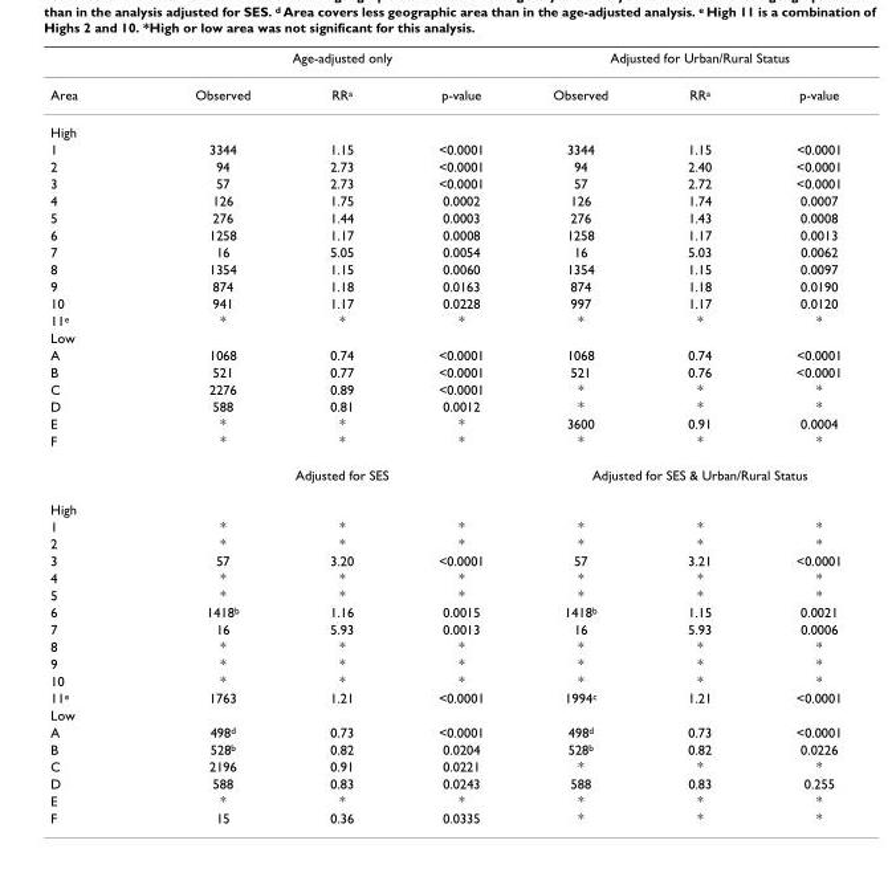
<table><thead><tr><td rowspan="2">Area</td><td colspan="3">Age-adjusted only</td><td colspan="3">Adjusted for Urban/Rural Status</td></tr><tr><td>Observed</td><td>RR<sup>a</sup></td><td>p-value</td><td>Observed</td><td>RR<sup>a</sup></td><td>p-value</td></tr></thead><tbody><tr><td colspan="7">High</td></tr><tr><td>1</td><td>3344</td><td>1.15</td><td>&lt;0.0001</td><td>3344</td><td>1.15</td><td>&lt;0.0001</td></tr><tr><td>2</td><td>94</td><td>2.73</td><td>&lt;0.0001</td><td>94</td><td>2.40</td><td>&lt;0.0001</td></tr><tr><td>3</td><td>57</td><td>2.73</td><td>&lt;0.0001</td><td>57</td><td>2.72</td><td>&lt;0.0001</td></tr><tr><td>4</td><td>126</td><td>1.75</td><td>0.0002</td><td>126</td><td>1.74</td><td>0.0007</td></tr><tr><td>5</td><td>276</td><td>1.44</td><td>0.0003</td><td>276</td><td>1.43</td><td>0.0008</td></tr><tr><td>6</td><td>1258</td><td>1.17</td><td>0.0008</td><td>1258</td><td>1.17</td><td>0.0013</td></tr><tr><td>7</td><td>16</td><td>5.05</td><td>0.0054</td><td>16</td><td>5.03</td><td>0.0062</td></tr><tr><td>8</td><td>1354</td><td>1.15</td><td>0.0060</td><td>1354</td><td>1.15</td><td>0.0097</td></tr><tr><td>9</td><td>874</td><td>1.18</td><td>0.0163</td><td>874</td><td>1.18</td><td>0.0190</td></tr><tr><td>10</td><td>941</td><td>1.17</td><td>0.0228</td><td>997</td><td>1.17</td><td>0.0120</td></tr><tr><td>11<sup>e</sup></td><td>*</td><td>*</td><td>*</td><td>*</td><td>*</td><td>*</td></tr><tr><td colspan="7">Low</td></tr><tr><td>A</td><td>1068</td><td>0.74</td><td>&lt;0.0001</td><td>1068</td><td>0.74</td><td>&lt;0.0001</td></tr><tr><td>B</td><td>521</td><td>0.77</td><td>&lt;0.0001</td><td>521</td><td>0.76</td><td>&lt;0.0001</td></tr><tr><td>C</td><td>2276</td><td>0.89</td><td>&lt;0.0001</td><td>*</td><td>*</td><td>*</td></tr><tr><td>D</td><td>588</td><td>0.81</td><td>0.0012</td><td>*</td><td>*</td><td>*</td></tr><tr><td>E</td><td>*</td><td>*</td><td>*</td><td>3600</td><td>0.91</td><td>0.0004</td></tr><tr><td rowspan="2">F</td><td>*</td><td>*</td><td>*</td><td>*</td><td>*</td><td>*</td></tr><tr><td colspan="3">Adjusted for SES</td><td colspan="3">Adjusted for SES &amp; Urban/Rural Status</td></tr><tr><td colspan="7">High</td></tr><tr><td>1</td><td>*</td><td>*</td><td>*</td><td>*</td><td>*</td><td>*</td></tr><tr><td>2</td><td>*</td><td>*</td><td>*</td><td>*</td><td>*</td><td>*</td></tr><tr><td>3</td><td>57</td><td>3.20</td><td>&lt;0.0001</td><td>57</td><td>3.21</td><td>&lt;0.0001</td></tr><tr><td>4</td><td>*</td><td>*</td><td>*</td><td>*</td><td>*</td><td>*</td></tr><tr><td>5</td><td>*</td><td>*</td><td>*</td><td>*</td><td>*</td><td>*</td></tr><tr><td>6</td><td>1418<sup>b</sup></td><td>1.16</td><td>0.0015</td><td>1418<sup>b</sup></td><td>1.15</td><td>0.0021</td></tr><tr><td>7</td><td>16</td><td>5.93</td><td>0.0013</td><td>16</td><td>5.93</td><td>0.0006</td></tr><tr><td>8</td><td>*</td><td>*</td><td>*</td><td>*</td><td>*</td><td>*</td></tr><tr><td>9</td><td>*</td><td>*</td><td>*</td><td>*</td><td>*</td><td>*</td></tr><tr><td>10</td><td>*</td><td>*</td><td>*</td><td>*</td><td>*</td><td>*</td></tr><tr><td>11<sup>e</sup></td><td>1763</td><td>1.21</td><td>&lt;0.0001</td><td>1994<sup>c</sup></td><td>1.21</td><td>&lt;0.0001</td></tr><tr><td colspan="7">Low</td></tr><tr><td>A</td><td>498<sup>d</sup></td><td>0.73</td><td>&lt;0.0001</td><td>498<sup>d</sup></td><td>0.73</td><td>&lt;0.0001</td></tr><tr><td>B</td><td>528<sup>b</sup></td><td>0.82</td><td>0.0204</td><td>528<sup>b</sup></td><td>0.82</td><td>0.0226</td></tr><tr><td>C</td><td>2196</td><td>0.91</td><td>0.0221</td><td>*</td><td>*</td><td>*</td></tr><tr><td>D</td><td>588</td><td>0.83</td><td>0.0243</td><td>588</td><td>0.83</td><td>0.255</td></tr><tr><td>E</td><td>*</td><td>*</td><td>*</td><td>*</td><td>*</td><td>*</td></tr><tr><td>F</td><td>15</td><td>0.36</td><td>0.0335</td><td>*</td><td>*</td><td>*</td></tr></tbody></table>